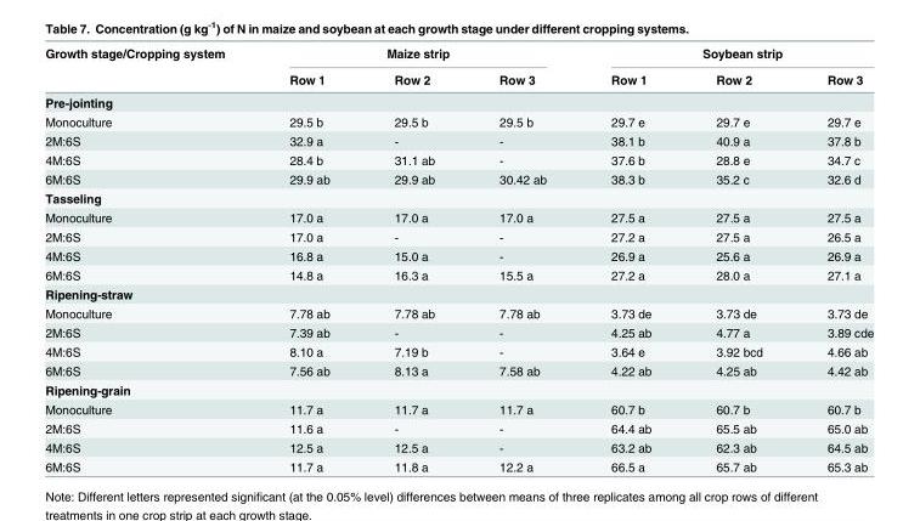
<table><thead><tr><td rowspan="2">Growth stage/Cropping system</td><td colspan="3">Maize strip</td><td colspan="3">Soybean strip</td></tr><tr><td>Row 1</td><td>Row 2</td><td>Row 3</td><td>Row 1</td><td>Row 2</td><td>Row 3</td></tr></thead><tbody><tr><td colspan="7">Pre-jointing</td></tr><tr><td>Monoculture</td><td>29.5 b</td><td>29.5 b</td><td>29.5 b</td><td>29.7 e</td><td>29.7 e</td><td>29.7 e</td></tr><tr><td>2M:6S</td><td>32.9 a</td><td>-</td><td>-</td><td>38.1 b</td><td>40.9 a</td><td>37.8 b</td></tr><tr><td>4M:6S</td><td>28.4 b</td><td>31.1 ab</td><td>-</td><td>37.6 b</td><td>28.8 e</td><td>34.7 c</td></tr><tr><td>6M:6S</td><td>29.9 ab</td><td>29.9 ab</td><td>30.42 ab</td><td>38.3 b</td><td>35.2 c</td><td>32.6 d</td></tr><tr><td colspan="7">Tasseling</td></tr><tr><td>Monoculture</td><td>17.0 a</td><td>17.0 a</td><td>17.0 a</td><td>27.5 a</td><td>27.5 a</td><td>27.5 a</td></tr><tr><td>2M:6S</td><td>17.0 a</td><td>-</td><td>-</td><td>27.2 a</td><td>27.5 a</td><td>26.5 a</td></tr><tr><td>4M:6S</td><td>16.8 a</td><td>15.0 a</td><td>-</td><td>26.9 a</td><td>25.6 a</td><td>26.9 a</td></tr><tr><td>6M:6S</td><td>14.8 a</td><td>16.3 a</td><td>15.5 a</td><td>27.2 a</td><td>28.0 a</td><td>27.1 a</td></tr><tr><td colspan="7">Ripening-straw</td></tr><tr><td>Monoculture</td><td>7.78 ab</td><td>7.78 ab</td><td>7.78 ab</td><td>3.73 de</td><td>3.73 de</td><td>3.73 de</td></tr><tr><td>2M:6S</td><td>7.39 ab</td><td>-</td><td>-</td><td>4.25 ab</td><td>4.77 a</td><td>3.89 cde</td></tr><tr><td>4M:6S</td><td>8.10 a</td><td>7.19 b</td><td>-</td><td>3.64 e</td><td>3.92 bcd</td><td>4.66 ab</td></tr><tr><td>6M:6S</td><td>7.56 ab</td><td>8.13 a</td><td>7.58 ab</td><td>4.22 ab</td><td>4.25 ab</td><td>4.42 ab</td></tr><tr><td colspan="7">Ripening-grain</td></tr><tr><td>Monoculture</td><td>11.7 a</td><td>11.7 a</td><td>11.7 a</td><td>60.7 b</td><td>60.7 b</td><td>60.7 b</td></tr><tr><td>2M:6S</td><td>11.6 a</td><td>-</td><td>-</td><td>64.4 ab</td><td>65.5 ab</td><td>65.0 ab</td></tr><tr><td>4M:6S</td><td>12.5 a</td><td>12.5 a</td><td>-</td><td>63.2 ab</td><td>62.3 ab</td><td>64.5 ab</td></tr><tr><td>6M:6S</td><td>11.7 a</td><td>11.8 a</td><td>12.2 a</td><td>66.5 a</td><td>65.7 ab</td><td>65.3 ab</td></tr></tbody></table>